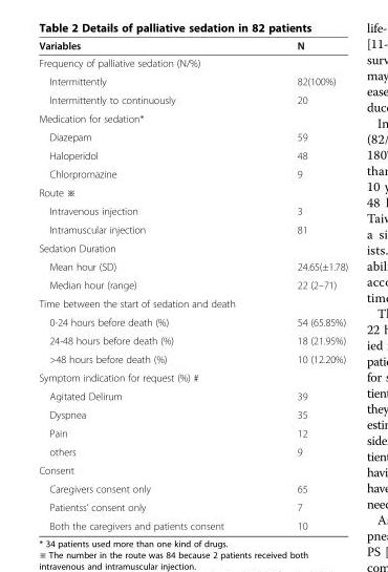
<table><thead><tr><td>Variables</td><td>N</td></tr></thead><tbody><tr><td colspan="2">Frequency of palliative sedation (N/%)</td></tr><tr><td>Intermittently</td><td>82(100%)</td></tr><tr><td>Intermittently to continuously</td><td>20</td></tr><tr><td colspan="2">Medication for sedation*</td></tr><tr><td>Diazepam</td><td>59</td></tr><tr><td>Haloperidol</td><td>48</td></tr><tr><td>Chlorpromazine</td><td>9</td></tr><tr><td colspan="2">Route ※</td></tr><tr><td>Intravenous injection</td><td>3</td></tr><tr><td>Intramuscular injection</td><td>81</td></tr><tr><td colspan="2">Sedation Duration</td></tr><tr><td>Mean hour (SD)</td><td>24.65(±1.78)</td></tr><tr><td>Median hour (range)</td><td>22 (2–71)</td></tr><tr><td colspan="2">Time between the start of sedation and death</td></tr><tr><td>0-24 hours before death (%)</td><td>54 (65.85%)</td></tr><tr><td>24-48 hours before death (%)</td><td>18 (21.95%)</td></tr><tr><td>&gt;48 hours before death (%)</td><td>10 (12.20%)</td></tr><tr><td colspan="2">Symptom indication for request (%) #</td></tr><tr><td>Agitated Delirum</td><td>39</td></tr><tr><td>Dyspnea</td><td>35</td></tr><tr><td>Pain</td><td>12</td></tr><tr><td>others</td><td>9</td></tr><tr><td colspan="2">Consent</td></tr><tr><td>Caregivers consent only</td><td>65</td></tr><tr><td>Patientss’ consent only</td><td>7</td></tr><tr><td>Both the caregivers and patients consent</td><td>10</td></tr></tbody></table>